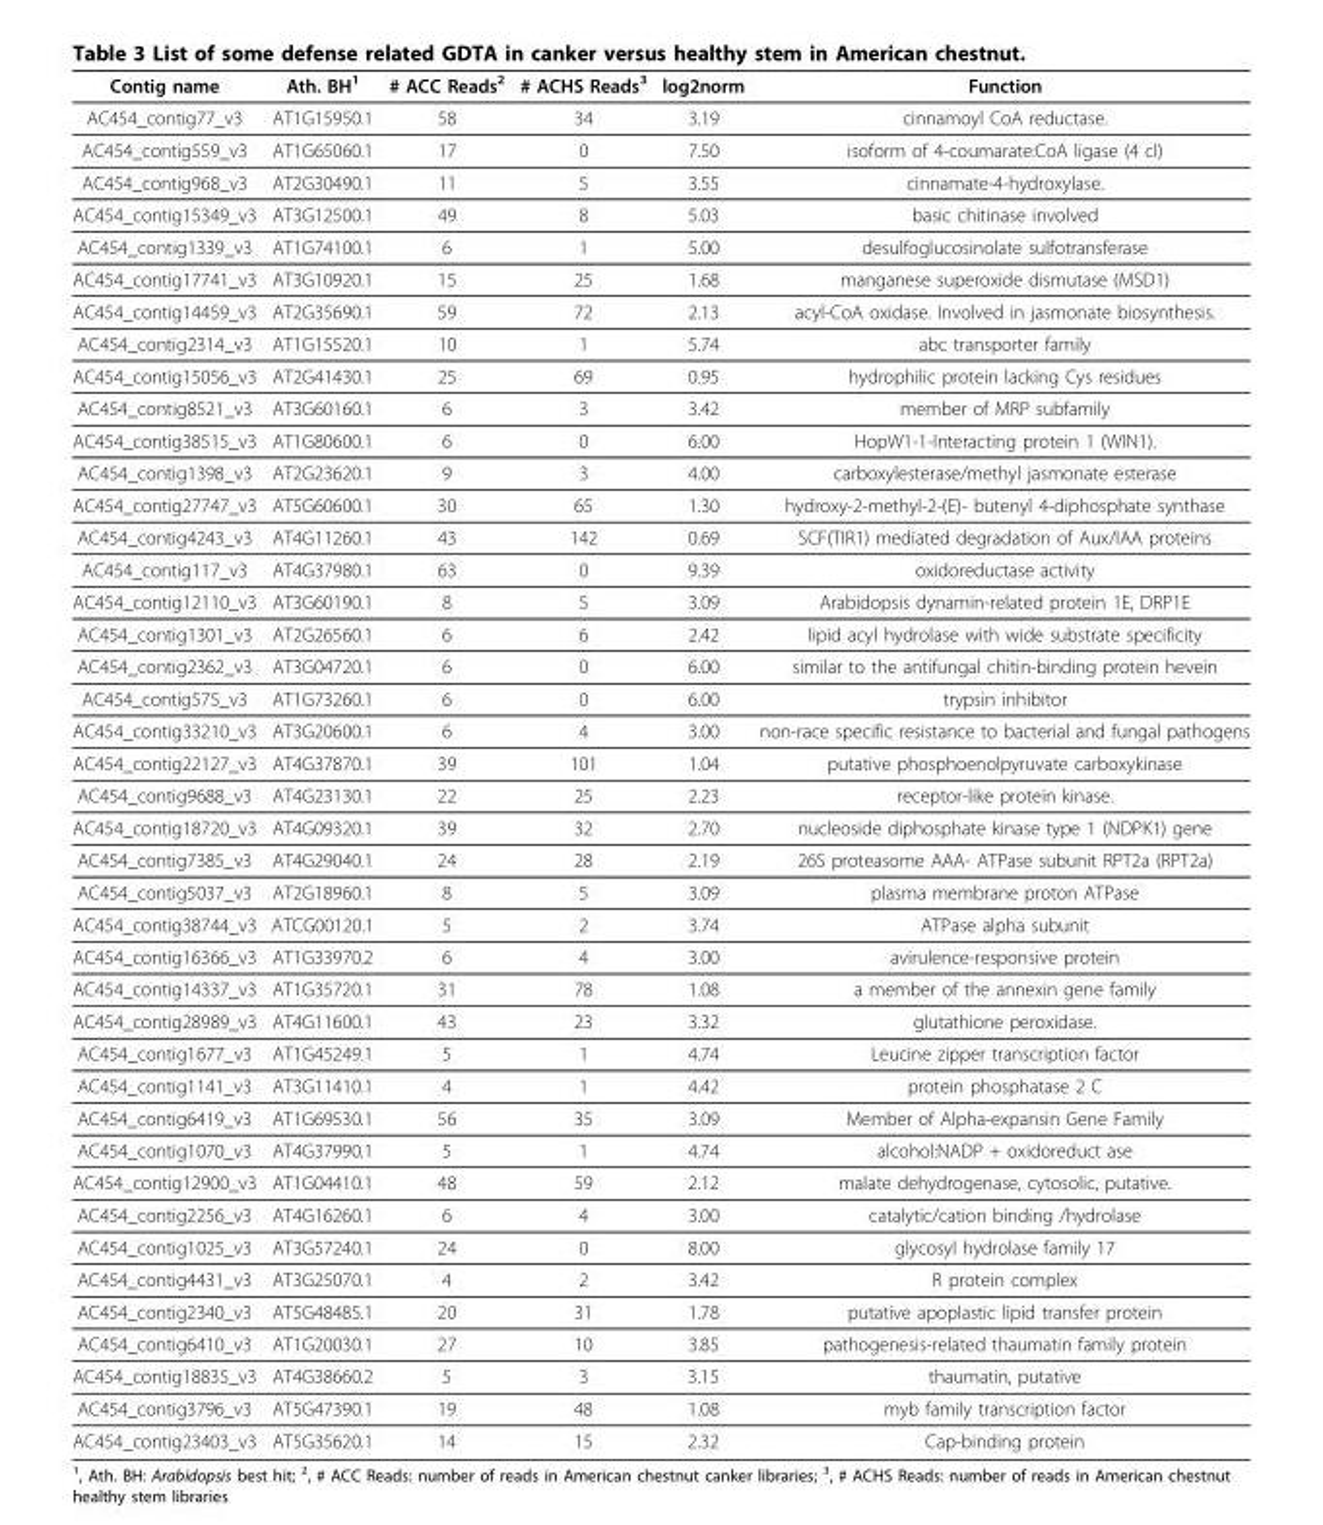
<table><thead><tr><td>Contig name</td><td>Ath. BH<sup>1</sup></td><td># ACC Reads<sup>2</sup></td><td># ACHS Reads<sup>3</sup></td><td>log2norm</td><td>Function</td></tr></thead><tbody><tr><td>AC454_contig77_v3</td><td>AT1G15950.1</td><td>58</td><td>34</td><td>3.19</td><td>cinnamoyl CoA reductase.</td></tr><tr><td>AC454_contig559_v3</td><td>AT1G65060.1</td><td>17</td><td>0</td><td>7.50</td><td>isoform of 4-coumarate:CoA ligase (4 cl)</td></tr><tr><td>AC454_contig968_v3</td><td>AT2G30490.1</td><td>11</td><td>5</td><td>3.55</td><td>cinnamate-4-hydroxylase.</td></tr><tr><td>AC454_contig15349_v3</td><td>AT3G12500.1</td><td>49</td><td>8</td><td>5.03</td><td>basic chitinase involved</td></tr><tr><td>AC454_contig1339_v3</td><td>AT1G74100.1</td><td>6</td><td>1</td><td>5.00</td><td>desulfoglucosinolate sulfotransferase</td></tr><tr><td>AC454_contig17741_v3</td><td>AT3G10920.1</td><td>15</td><td>25</td><td>1.68</td><td>manganese superoxide dismutase (MSD1)</td></tr><tr><td>AC454_contig14459_v3</td><td>AT2G35690.1</td><td>59</td><td>72</td><td>2.13</td><td>acyl-CoA oxidase. Involved in jasmonate biosynthesis.</td></tr><tr><td>AC454_contig2314_v3</td><td>AT1G15520.1</td><td>10</td><td>1</td><td>5.74</td><td>abc transporter family</td></tr><tr><td>AC454_contig15056_v3</td><td>AT2G41430.1</td><td>25</td><td>69</td><td>0.95</td><td>hydrophilic protein lacking Cys residues</td></tr><tr><td>AC454_contig8521_v3</td><td>AT3G60160.1</td><td>6</td><td>3</td><td>3.42</td><td>member of MRP subfamily</td></tr><tr><td>AC454_contig38515_v3</td><td>AT1G80600.1</td><td>6</td><td>0</td><td>6.00</td><td>HopW1-1-Interacting protein 1 (WIN1).</td></tr><tr><td>AC454_contig1398_v3</td><td>AT2G23620.1</td><td>9</td><td>3</td><td>4.00</td><td>carboxylesterase/methyl jasmonate esterase</td></tr><tr><td>AC454_contig27747_v3</td><td>AT5G60600.1</td><td>30</td><td>65</td><td>1.30</td><td>hydroxy-2-methyl-2-(E)- butenyl 4-diphosphate synthase</td></tr><tr><td>AC454_contig4243_v3</td><td>AT4G11260.1</td><td>43</td><td>142</td><td>0.69</td><td>SCF(TIR1) mediated degradation of Aux/IAA proteins</td></tr><tr><td>AC454_contig117_v3</td><td>AT4G37980.1</td><td>63</td><td>0</td><td>9.39</td><td>oxidoreductase activity</td></tr><tr><td>AC454_contig12110_v3</td><td>AT3G60190.1</td><td>8</td><td>5</td><td>3.09</td><td>Arabidopsis dynamin-related protein 1E, DRP1E</td></tr><tr><td>AC454_contig1301_v3</td><td>AT2G26560.1</td><td>6</td><td>6</td><td>2.42</td><td>lipid acyl hydrolase with wide substrate specificity</td></tr><tr><td>AC454_contig2362_v3</td><td>AT3G04720.1</td><td>6</td><td>0</td><td>6.00</td><td>similar to the antifungal chitin-binding protein hevein</td></tr><tr><td>AC454_contig575_v3</td><td>AT1G73260.1</td><td>6</td><td>0</td><td>6.00</td><td>trypsin inhibitor</td></tr><tr><td>AC454_contig33210_v3</td><td>AT3G20600.1</td><td>6</td><td>4</td><td>3.00</td><td>non-race specific resistance to bacterial and fungal pathogens</td></tr><tr><td>AC454_contig22127_v3</td><td>AT4G37870.1</td><td>39</td><td>101</td><td>1.04</td><td>putative phosphoenolpyruvate carboxykinase</td></tr><tr><td>AC454_contig9688_v3</td><td>AT4G23130.1</td><td>22</td><td>25</td><td>2.23</td><td>receptor-like protein kinase.</td></tr><tr><td>AC454_contig18720_v3</td><td>AT4G09320.1</td><td>39</td><td>32</td><td>2.70</td><td>nucleoside diphosphate kinase type 1 (NDPK1) gene</td></tr><tr><td>AC454_contig7385_v3</td><td>AT4G29040.1</td><td>24</td><td>28</td><td>2.19</td><td>26S proteasome AAA- ATPase subunit RPT2a (RPT2a)</td></tr><tr><td>AC454_contig5037_v3</td><td>AT2G18960.1</td><td>8</td><td>5</td><td>3.09</td><td>plasma membrane proton ATPase</td></tr><tr><td>AC454_contig38744_v3</td><td>ATCG00120.1</td><td>5</td><td>2</td><td>3.74</td><td>ATPase alpha subunit</td></tr><tr><td>AC454_contig16366_v3</td><td>AT1G33970.2</td><td>6</td><td>4</td><td>3.00</td><td>avirulence-responsive protein</td></tr><tr><td>AC454_contig14337_v3</td><td>AT1G35720.1</td><td>31</td><td>78</td><td>1.08</td><td>a member of the annexin gene family</td></tr><tr><td>AC454_contig28989_v3</td><td>AT4G11600.1</td><td>43</td><td>23</td><td>3.32</td><td>glutathione peroxidase.</td></tr><tr><td>AC454_contig1677_v3</td><td>AT1G45249.1</td><td>5</td><td>1</td><td>4.74</td><td>Leucine zipper transcription factor</td></tr><tr><td>AC454_contig1141_v3</td><td>AT3G11410.1</td><td>4</td><td>1</td><td>4.42</td><td>protein phosphatase 2 C</td></tr><tr><td>AC454_contig6419_v3</td><td>AT1G69530.1</td><td>56</td><td>35</td><td>3.09</td><td>Member of Alpha-expansin Gene Family</td></tr><tr><td>AC454_contig1070_v3</td><td>AT4G37990.1</td><td>5</td><td>1</td><td>4.74</td><td>alcohol:NADP + oxidoreduct ase</td></tr><tr><td>AC454_contig12900_v3</td><td>AT1G04410.1</td><td>48</td><td>59</td><td>2.12</td><td>malate dehydrogenase, cytosolic, putative.</td></tr><tr><td>AC454_contig2256_v3</td><td>AT4G16260.1</td><td>6</td><td>4</td><td>3.00</td><td>catalytic/cation binding /hydrolase</td></tr><tr><td>AC454_contig1025_v3</td><td>AT3G57240.1</td><td>24</td><td>0</td><td>8.00</td><td>glycosyl hydrolase family 17</td></tr><tr><td>AC454_contig4431_v3</td><td>AT3G25070.1</td><td>4</td><td>2</td><td>3.42</td><td>R protein complex</td></tr><tr><td>AC454_contig2340_v3</td><td>AT5G48485.1</td><td>20</td><td>31</td><td>1.78</td><td>putative apoplastic lipid transfer protein</td></tr><tr><td>AC454_contig6410_v3</td><td>AT1G20030.1</td><td>27</td><td>10</td><td>3.85</td><td>pathogenesis-related thaumatin family protein</td></tr><tr><td>AC454_contig18835_v3</td><td>AT4G38660.2</td><td>5</td><td>3</td><td>3.15</td><td>thaumatin, putative</td></tr><tr><td>AC454_contig3796_v3</td><td>AT5G47390.1</td><td>19</td><td>48</td><td>1.08</td><td>myb family transcription factor</td></tr><tr><td>AC454_contig23403_v3</td><td>AT5G35620.1</td><td>14</td><td>15</td><td>2.32</td><td>Cap-binding protein</td></tr></tbody></table>